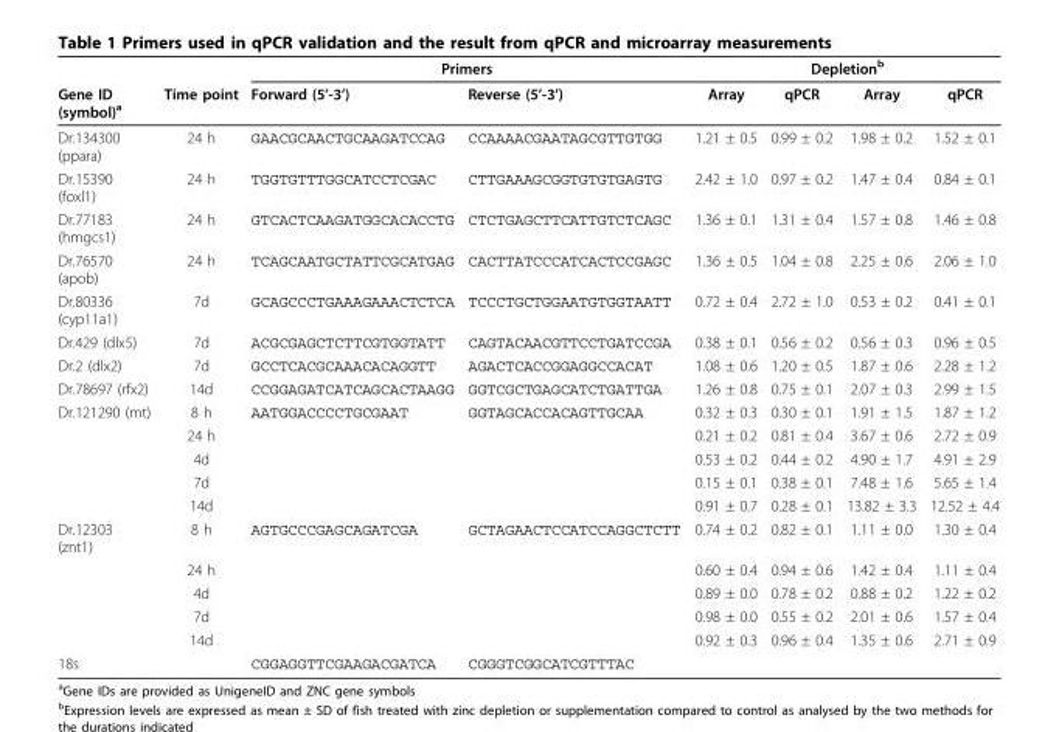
<table><thead><tr><td rowspan="2">Gene ID (symbol)<sup>a</sup></td><td rowspan="2">Time point</td><td colspan="2">Primers</td><td colspan="4">Depletion<sup>b</sup></td></tr><tr><td>Forward (5’-3’)</td><td>Reverse (5’-3’)</td><td>Array</td><td>qPCR</td><td>Array</td><td>qPCR</td></tr></thead><tbody><tr><td>Dr.134300 (ppara)</td><td>24 h</td><td>GAACGCAACTGCAAGATCCAG</td><td>CCAAAACGAATAGCGTTGTGG</td><td>1.21 ± 0.5</td><td>0.99 ± 0.2</td><td>1.98 ± 0.2</td><td>1.52 ± 0.1</td></tr><tr><td>Dr.15390 (foxl1)</td><td>24 h</td><td>TGGTGTTTGGCATCCTCGAC</td><td>CTTGAAAGCGGTGTGTGAGTG</td><td>2.42 ± 1.0</td><td>0.97 ± 0.2</td><td>1.47 ± 0.4</td><td>0.84 ± 0.1</td></tr><tr><td>Dr.77183 (hmgcs1)</td><td>24 h</td><td>GTCACTCAAGATGGCACACCTG</td><td>CTCTGAGCTTCATTGTCTCAGC</td><td>1.36 ± 0.1</td><td>1.31 ± 0.4</td><td>1.57 ± 0.8</td><td>1.46 ± 0.8</td></tr><tr><td>Dr.76570 (apob)</td><td>24 h</td><td>TCAGCAATGCTATTCGCATGAG</td><td>CACTTATCCCATCACTCCGAGC</td><td>1.36 ± 0.5</td><td>1.04 ± 0.8</td><td>2.25 ± 0.6</td><td>2.06 ± 1.0</td></tr><tr><td>Dr.80336 (cyp11a1)</td><td>7d</td><td>GCAGCCCTGAAAGAAACTCTCA</td><td>TCCCTGCTGGAATGTGGTAATT</td><td>0.72 ± 0.4</td><td>2.72 ± 1.0</td><td>0.53 ± 0.2</td><td>0.41 ± 0.1</td></tr><tr><td>Dr.429 (dlx5)</td><td>7d</td><td>ACGCGAGCTCTTCGTGGTATT</td><td>CAGTACAACGTTCCTGATCCGA</td><td>0.38 ± 0.1</td><td>0.56 ± 0.2</td><td>0.56 ± 0.3</td><td>0.96 ± 0.5</td></tr><tr><td>Dr.2 (dlx2)</td><td>7d</td><td>GCCTCACGCAAACACAGGTT</td><td>AGACTCACCGGAGGCCACAT</td><td>1.08 ± 0.6</td><td>1.20 ± 0.5</td><td>1.87 ± 0.6</td><td>2.28 ± 1.2</td></tr><tr><td>Dr.78697 (rfx2)</td><td>14d</td><td>CCGGAGATCATCAGCACTAAGG</td><td>GGTCGCTGAGCATCTGATTGA</td><td>1.26 ± 0.8</td><td>0.75 ± 0.1</td><td>2.07 ± 0.3</td><td>2.99 ± 1.5</td></tr><tr><td rowspan="5">Dr.121290 (mt)</td><td>8 h</td><td>AATGGACCCCTGCGAAT</td><td>GGTAGCACCACAGTTGCAA</td><td>0.32 ± 0.3</td><td>0.30 ± 0.1</td><td>1.91 ± 1.5</td><td>1.87 ± 1.2</td></tr><tr><td>24 h</td><td></td><td></td><td>0.21 ± 0.2</td><td>0.81 ± 0.4</td><td>3.67 ± 0.6</td><td>2.72 ± 0.9</td></tr><tr><td>4d</td><td></td><td></td><td>0.53 ± 0.2</td><td>0.44 ± 0.2</td><td>4.90 ± 1.7</td><td>4.91 ± 2.9</td></tr><tr><td>7d</td><td></td><td></td><td>0.15 ± 0.1</td><td>0.38 ± 0.1</td><td>7.48 ± 1.6</td><td>5.65 ± 1.4</td></tr><tr><td>14d</td><td></td><td></td><td>0.91 ± 0.7</td><td>0.28 ± 0.1</td><td>13.82 ± 3.3</td><td>12.52 ± 4.4</td></tr><tr><td rowspan="5">Dr.12303 (znt1)</td><td>8 h</td><td>AGTGCCCGAGCAGATCGA</td><td>GCTAGAACTCCATCCAGGCTCTT</td><td>0.74 ± 0.2</td><td>0.82 ± 0.1</td><td>1.11 ± 0.0</td><td>1.30 ± 0.4</td></tr><tr><td>24 h</td><td></td><td></td><td>0.60 ± 0.4</td><td>0.94 ± 0.6</td><td>1.42 ± 0.4</td><td>1.11 ± 0.4</td></tr><tr><td>4d</td><td></td><td></td><td>0.89 ± 0.0</td><td>0.78 ± 0.2</td><td>0.88 ± 0.2</td><td>1.22 ± 0.2</td></tr><tr><td>7d</td><td></td><td></td><td>0.98 ± 0.0</td><td>0.55 ± 0.2</td><td>2.01 ± 0.6</td><td>1.57 ± 0.4</td></tr><tr><td>14d</td><td></td><td></td><td>0.92 ± 0.3</td><td>0.96 ± 0.4</td><td>1.35 ± 0.6</td><td>2.71 ± 0.9</td></tr><tr><td>18s</td><td></td><td>CGGAGGTTCGAAGACGATCA</td><td>CGGGTCGGCATCGTTTAC</td><td></td><td></td><td></td><td></td></tr></tbody></table>